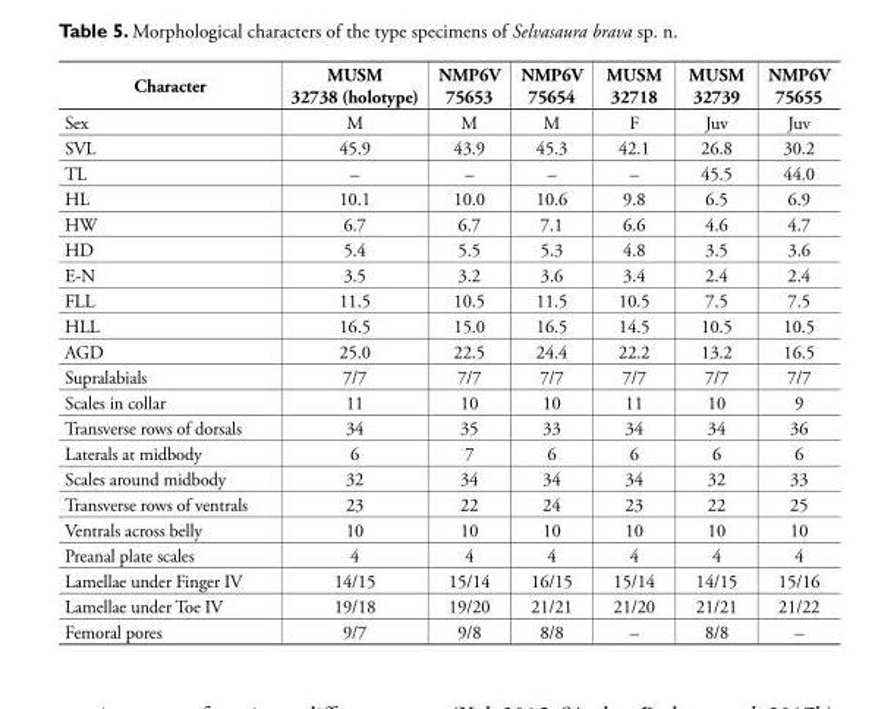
<table><thead><tr><td>Character</td><td>MUSM 32738 (holotype)</td><td>NMP6V 75653</td><td>NMP6V 75654</td><td>MUSM 32718</td><td>MUSM 32739</td><td>NMP6V 75655</td></tr></thead><tbody><tr><td>Sex</td><td>M</td><td>M</td><td>M</td><td>F</td><td>Juv</td><td>Juv</td></tr><tr><td>SVL</td><td>45.9</td><td>43.9</td><td>45.3</td><td>42.1</td><td>26.8</td><td>30.2</td></tr><tr><td>TL</td><td>–</td><td>–</td><td>–</td><td>–</td><td>45.5</td><td>44.0</td></tr><tr><td>HL</td><td>10.1</td><td>10.0</td><td>10.6</td><td>9.8</td><td>6.5</td><td>6.9</td></tr><tr><td>HW</td><td>6.7</td><td>6.7</td><td>7.1</td><td>6.6</td><td>4.6</td><td>4.7</td></tr><tr><td>HD</td><td>5.4</td><td>5.5</td><td>5.3</td><td>4.8</td><td>3.5</td><td>3.6</td></tr><tr><td>E-N</td><td>3.5</td><td>3.2</td><td>3.6</td><td>3.4</td><td>2.4</td><td>2.4</td></tr><tr><td>FLL</td><td>11.5</td><td>10.5</td><td>11.5</td><td>10.5</td><td>7.5</td><td>7.5</td></tr><tr><td>HLL</td><td>16.5</td><td>15.0</td><td>16.5</td><td>14.5</td><td>10.5</td><td>10.5</td></tr><tr><td>AGD</td><td>25.0</td><td>22.5</td><td>24.4</td><td>22.2</td><td>13.2</td><td>16.5</td></tr><tr><td>Supralabials</td><td>7/7</td><td>7/7</td><td>7/7</td><td>7/7</td><td>7/7</td><td>7/7</td></tr><tr><td>Scales in collar</td><td>11</td><td>10</td><td>10</td><td>11</td><td>10</td><td>9</td></tr><tr><td>Transverse rows of dorsals</td><td>34</td><td>35</td><td>33</td><td>34</td><td>34</td><td>36</td></tr><tr><td>Laterals at midbody</td><td>6</td><td>7</td><td>6</td><td>6</td><td>6</td><td>6</td></tr><tr><td>Scales around midbody</td><td>32</td><td>34</td><td>34</td><td>34</td><td>32</td><td>33</td></tr><tr><td>Transverse rows of ventrals</td><td>23</td><td>22</td><td>24</td><td>23</td><td>22</td><td>25</td></tr><tr><td>Ventrals across belly</td><td>10</td><td>10</td><td>10</td><td>10</td><td>10</td><td>10</td></tr><tr><td>Preanal plate scales</td><td>4</td><td>4</td><td>4</td><td>4</td><td>4</td><td>4</td></tr><tr><td>Lamellae under Finger IV</td><td>14/15</td><td>15/14</td><td>16/15</td><td>15/14</td><td>14/15</td><td>15/16</td></tr><tr><td>Lamellae under Toe IV</td><td>19/18</td><td>19/20</td><td>21/21</td><td>21/20</td><td>21/21</td><td>21/22</td></tr><tr><td>Femoral pores</td><td>9/7</td><td>9/8</td><td>8/8</td><td>–</td><td>8/8</td><td>–</td></tr></tbody></table>